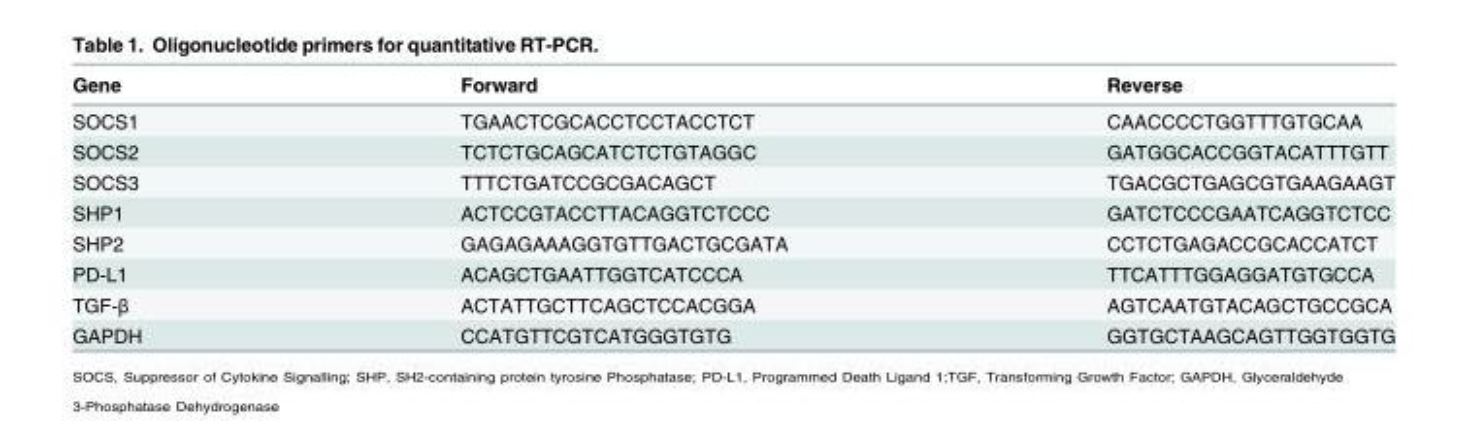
<table><thead><tr><td>Gene</td><td>Forward</td><td>Reverse</td></tr></thead><tbody><tr><td>SOCS1</td><td>TGAACTCGCACCTCCTACCTCT</td><td>CAACCCCTGGTTTGTGCAA</td></tr><tr><td>SOCS2</td><td>TCTCTGCAGCATCTCTGTAGGC</td><td>GATGGCACCGGTACATTTGTT</td></tr><tr><td>SOCS3</td><td>TTTCTGATCCGCGACAGCT</td><td>TGACGCTGAGCGTGAAGAAGT</td></tr><tr><td>SHP1</td><td>ACTCCGTACCTTACAGGTCTCCC</td><td>GATCTCCCGAATCAGGTCTCC</td></tr><tr><td>SHP2</td><td>GAGAGAAAGGTGTTGACTGCGATA</td><td>CCTCTGAGACCGCACCATCT</td></tr><tr><td>PD-L1</td><td>ACAGCTGAATTGGTCATCCCA</td><td>TTCATTTGGAGGATGTGCCA</td></tr><tr><td>TGF-β</td><td>ACTATTGCTTCAGCTCCACGGA</td><td>AGTCAATGTACAGCTGCCGCA</td></tr><tr><td>GAPDH</td><td>CCATGTTCGTCATGGGTGTG</td><td>GGTGCTAAGCAGTTGGTGGTG</td></tr></tbody></table>